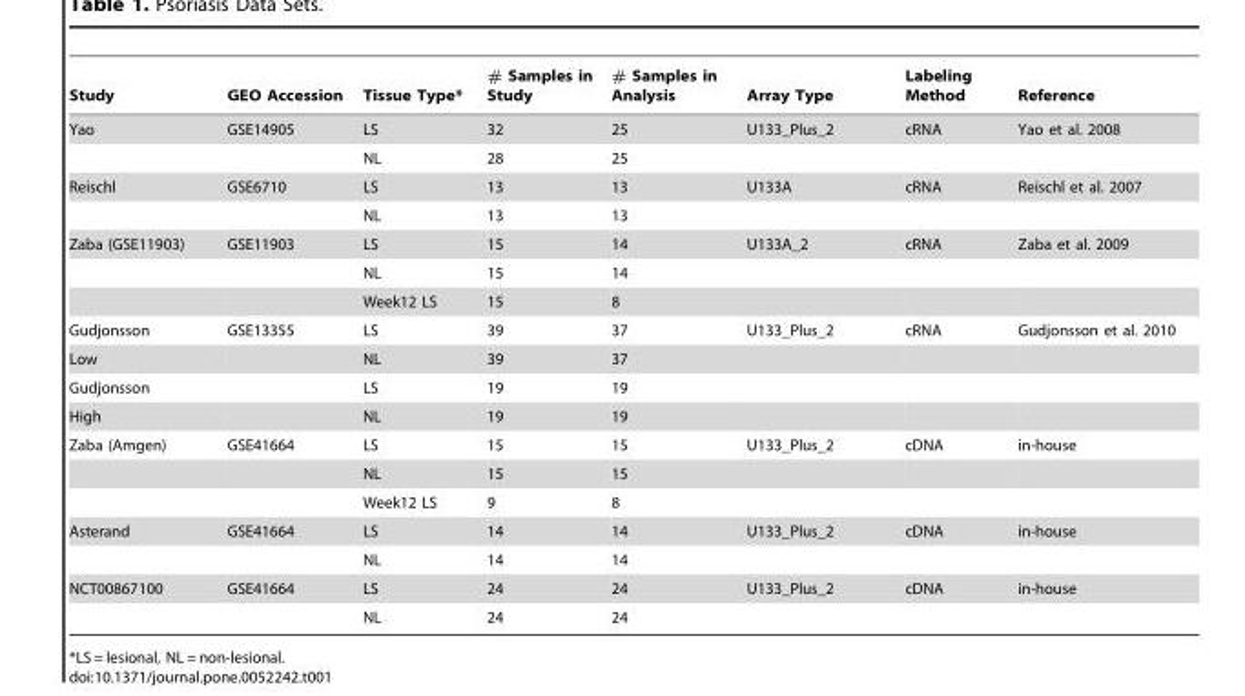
<table><thead><tr><td>Study</td><td>GEO Accession</td><td>Tissue Type*</td><td># Samples in Study</td><td># Samples in Analysis</td><td>Array Type</td><td>Labeling Method</td><td>Reference</td></tr></thead><tbody><tr><td rowspan="2">Yao</td><td>GSE14905</td><td>LS</td><td>32</td><td>25</td><td>U133_Plus_2</td><td>cRNA</td><td>Yao et al. 2008</td></tr><tr><td></td><td>NL</td><td>28</td><td>25</td><td></td><td></td><td></td></tr><tr><td rowspan="2">Reischl</td><td>GSE6710</td><td>LS</td><td>13</td><td>13</td><td>U133A</td><td>cRNA</td><td>Reischl et al. 2007</td></tr><tr><td></td><td>NL</td><td>13</td><td>13</td><td></td><td></td><td></td></tr><tr><td rowspan="3">Zaba (GSE11903)</td><td>GSE11903</td><td>LS</td><td>15</td><td>14</td><td>U133A_2</td><td>cRNA</td><td>Zaba et al. 2009</td></tr><tr><td></td><td>NL</td><td>15</td><td>14</td><td></td><td></td><td></td></tr><tr><td></td><td>Week12 LS</td><td>15</td><td>8</td><td></td><td></td><td></td></tr><tr><td>Gudjonsson</td><td>GSE13355</td><td>LS</td><td>39</td><td>37</td><td>U133_Plus_2</td><td>cRNA</td><td>Gudjonsson et al. 2010</td></tr><tr><td>Low</td><td></td><td>NL</td><td>39</td><td>37</td><td></td><td></td><td></td></tr><tr><td>Gudjonsson</td><td></td><td>LS</td><td>19</td><td>19</td><td></td><td></td><td></td></tr><tr><td>High</td><td></td><td>NL</td><td>19</td><td>19</td><td></td><td></td><td></td></tr><tr><td rowspan="3">Zaba (Amgen)</td><td>GSE41664</td><td>LS</td><td>15</td><td>15</td><td>U133_Plus_2</td><td>cDNA</td><td>in-house</td></tr><tr><td></td><td>NL</td><td>15</td><td>15</td><td></td><td></td><td></td></tr><tr><td></td><td>Week12 LS</td><td>9</td><td>8</td><td></td><td></td><td></td></tr><tr><td rowspan="2">Asterand</td><td>GSE41664</td><td>LS</td><td>14</td><td>14</td><td>U133_Plus_2</td><td>cDNA</td><td>in-house</td></tr><tr><td></td><td>NL</td><td>14</td><td>14</td><td></td><td></td><td></td></tr><tr><td rowspan="2">NCT00867100</td><td>GSE41664</td><td>LS</td><td>24</td><td>24</td><td>U133_Plus_2</td><td>cDNA</td><td>in-house</td></tr><tr><td></td><td>NL</td><td>24</td><td>24</td><td></td><td></td><td></td></tr></tbody></table>